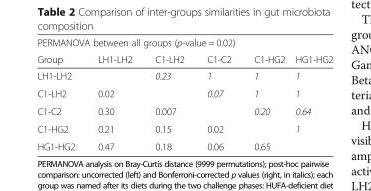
<table><thead><tr><td colspan="4">PERMANOVA between all groups (p-value = 0.02)</td><td rowspan="2">C1-HG2</td><td rowspan="2">HG1-HG2</td></tr><tr><td>Group</td><td>LH1-LH2</td><td>C1-LH2</td><td>C1-C2</td></tr></thead><tbody><tr><td>LH1-LH2</td><td></td><td>0.23</td><td>1</td><td>1</td><td>1</td></tr><tr><td>C1-LH2</td><td>0.02</td><td></td><td>0.07</td><td>1</td><td>1</td></tr><tr><td>C1-C2</td><td>0.30</td><td>0.007</td><td></td><td>0.20</td><td>0.64</td></tr><tr><td>C1-HG2</td><td>0.21</td><td>0.15</td><td>0.02</td><td></td><td>1</td></tr><tr><td>HG1-HG2</td><td>0.47</td><td>0.18</td><td>0.06</td><td>0.65</td><td></td></tr></tbody></table>